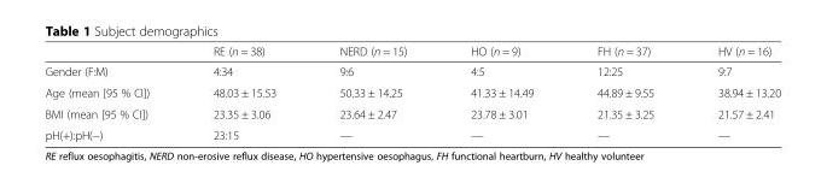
<table><thead><tr><td></td><td>RE (n = 38)</td><td>NERD (n = 15)</td><td>HO (n = 9)</td><td>FH (n = 37)</td><td>HV (n = 16)</td></tr></thead><tbody><tr><td>Gender (F:M)</td><td>4:34</td><td>9:6</td><td>4:5</td><td>12:25</td><td>9:7</td></tr><tr><td>Age (mean [95 % CI])</td><td>48.03 ± 15.53</td><td>50.33 ± 14.25</td><td>41.33 ± 14.49</td><td>44.89 ± 9.55</td><td>38.94 ± 13.20</td></tr><tr><td>BMI (mean [95 % CI])</td><td>23.35 ± 3.06</td><td>23.64 ± 2.47</td><td>23.78 ± 3.01</td><td>21.35 ± 3.25</td><td>21.57 ± 2.41</td></tr><tr><td>pH(+):pH(−)</td><td>23:15</td><td>—</td><td>—</td><td>—</td><td>—</td></tr></tbody></table>